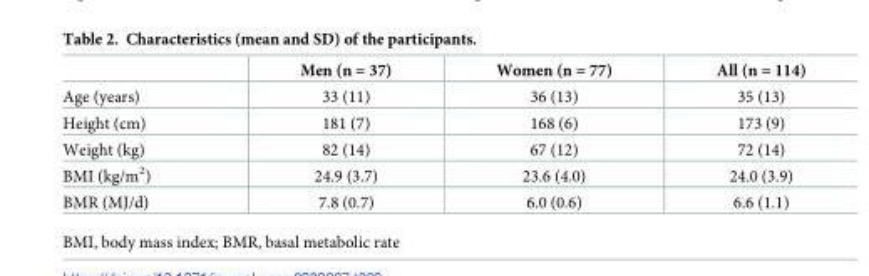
<table><thead><tr><td></td><td>Men (n = 37)</td><td>Women (n = 77)</td><td>All (n = 114)</td></tr></thead><tbody><tr><td>Age (years)</td><td>33 (11)</td><td>36 (13)</td><td>35 (13)</td></tr><tr><td>Height (cm)</td><td>181 (7)</td><td>168 (6)</td><td>173 (9)</td></tr><tr><td>Weight (kg)</td><td>82 (14)</td><td>67 (12)</td><td>72 (14)</td></tr><tr><td>BMI (kg/m<sup>2</sup>)</td><td>24.9 (3.7)</td><td>23.6 (4.0)</td><td>24.0 (3.9)</td></tr><tr><td>BMR (MJ/d)</td><td>7.8 (0.7)</td><td>6.0 (0.6)</td><td>6.6 (1.1)</td></tr></tbody></table>